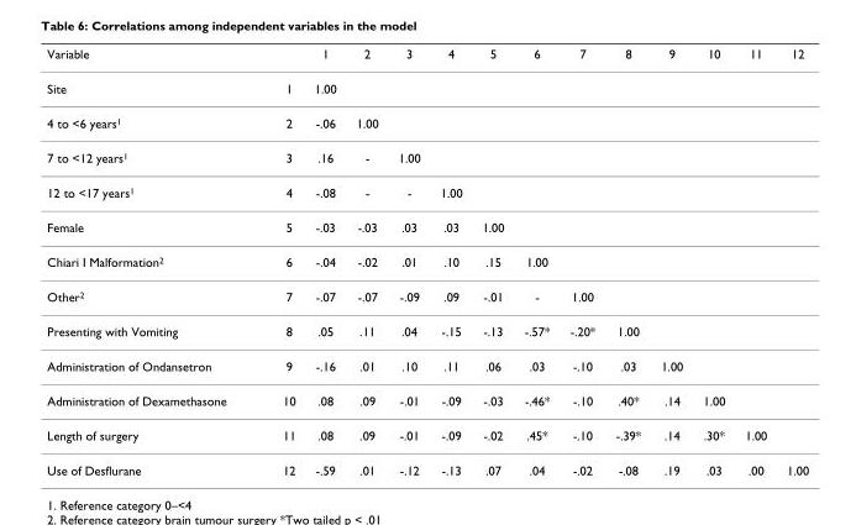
<table><thead><tr><td>Variable</td><td></td><td>1</td><td>2</td><td>3</td><td>4</td><td>5</td><td>6</td><td>7</td><td>8</td><td>9</td><td>10</td><td>11</td><td>12</td></tr></thead><tbody><tr><td>Site</td><td>1</td><td>1.00</td><td></td><td></td><td></td><td></td><td></td><td></td><td></td><td></td><td></td><td></td><td></td></tr><tr><td>4 to &lt;6 years<sup>1</sup></td><td>2</td><td>-.06</td><td>1.00</td><td></td><td></td><td></td><td></td><td></td><td></td><td></td><td></td><td></td><td></td></tr><tr><td>7 to &lt;12 years<sup>1</sup></td><td>3</td><td>.16</td><td>-</td><td>1.00</td><td></td><td></td><td></td><td></td><td></td><td></td><td></td><td></td><td></td></tr><tr><td>12 to &lt;17 years<sup>1</sup></td><td>4</td><td>-.08</td><td>-</td><td>-</td><td>1.00</td><td></td><td></td><td></td><td></td><td></td><td></td><td></td><td></td></tr><tr><td>Female</td><td>5</td><td>-.03</td><td>-.03</td><td>.03</td><td>.03</td><td>1.00</td><td></td><td></td><td></td><td></td><td></td><td></td><td></td></tr><tr><td>Chiari I Malformation<sup>2</sup></td><td>6</td><td>-.04</td><td>-.02</td><td>.01</td><td>.10</td><td>.15</td><td>1.00</td><td></td><td></td><td></td><td></td><td></td><td></td></tr><tr><td>Other<sup>2</sup></td><td>7</td><td>-.07</td><td>-.07</td><td>-.09</td><td>.09</td><td>-.01</td><td>-</td><td>1.00</td><td></td><td></td><td></td><td></td><td></td></tr><tr><td>Presenting with Vomiting</td><td>8</td><td>.05</td><td>.11</td><td>.04</td><td>-.15</td><td>-.13</td><td>-.57*</td><td>-.20*</td><td>1.00</td><td></td><td></td><td></td><td></td></tr><tr><td>Administration of Ondansetron</td><td>9</td><td>-.16</td><td>.01</td><td>.10</td><td>.11</td><td>.06</td><td>.03</td><td>-.10</td><td>.03</td><td>1.00</td><td></td><td></td><td></td></tr><tr><td>Administration of Dexamethasone</td><td>10</td><td>.08</td><td>.09</td><td>-.01</td><td>-.09</td><td>-.03</td><td>-.46*</td><td>-.10</td><td>.40*</td><td>.14</td><td>1.00</td><td></td><td></td></tr><tr><td>Length of surgery</td><td>11</td><td>.08</td><td>.09</td><td>-.01</td><td>-.09</td><td>-.02</td><td>.45*</td><td>-.10</td><td>-.39*</td><td>.14</td><td>.30*</td><td>1.00</td><td></td></tr><tr><td>Use of Desflurane</td><td>12</td><td>-.59</td><td>.01</td><td>-.12</td><td>-.13</td><td>.07</td><td>.04</td><td>-.02</td><td>-.08</td><td>.19</td><td>.03</td><td>.00</td><td>1.00</td></tr></tbody></table>